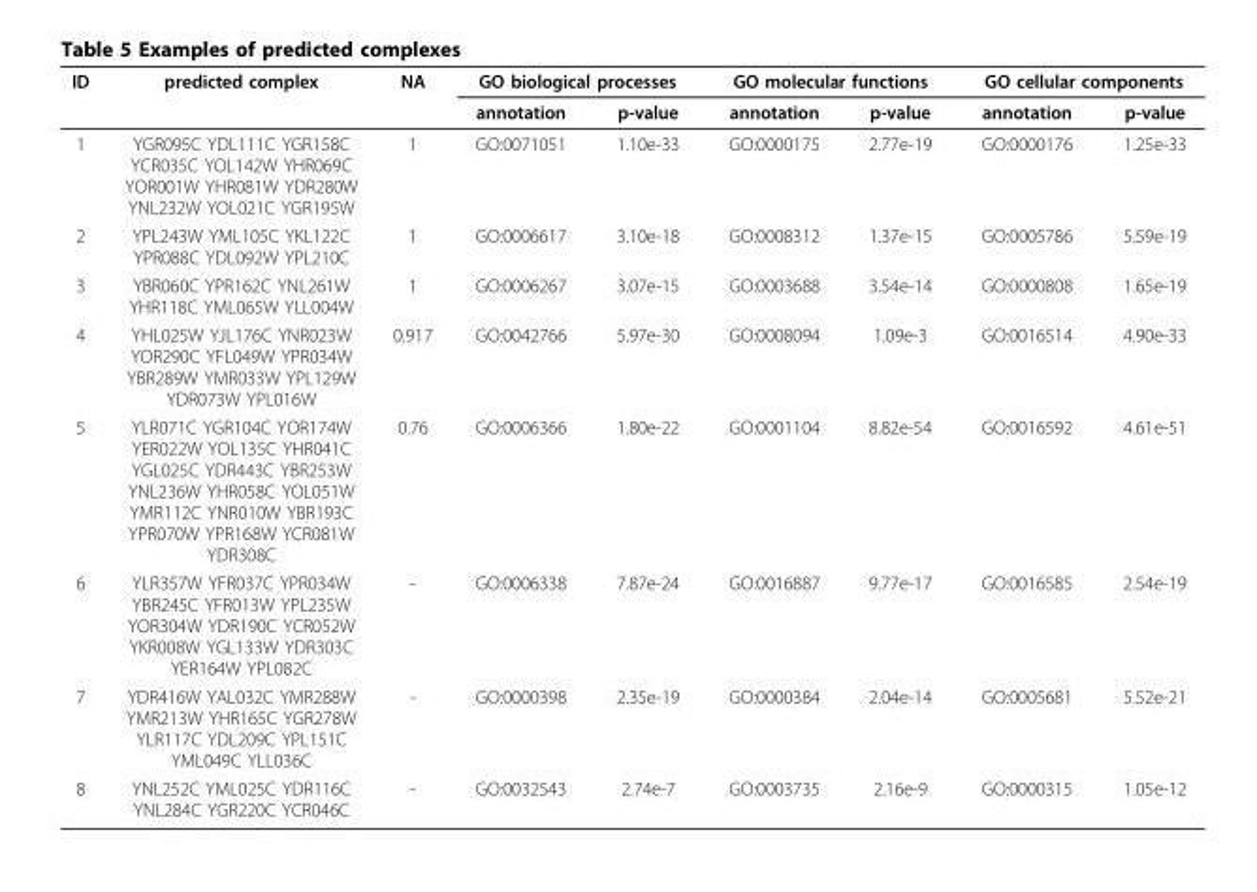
<table><thead><tr><td rowspan="2">ID</td><td rowspan="2">predicted complex</td><td rowspan="2">NA</td><td colspan="2">GO biological processes</td><td colspan="2">GO molecular functions</td><td colspan="2">GO cellular components</td></tr><tr><td>annotation</td><td>p-value</td><td>annotation</td><td>p-value</td><td>annotation</td><td>p-value</td></tr></thead><tbody><tr><td>1</td><td>YGR095C YDL111C YGR158C YCR035C YOL142W YHR069C YOR001W YHR081W YDR280W YNL232W YOL021C YGR195W</td><td>1</td><td>GO:0071051</td><td>1.10e-33</td><td>GO:0000175</td><td>2.77e-19</td><td>GO:0000176</td><td>1.25e-33</td></tr><tr><td>2</td><td>YPL243W YML105C YKL122C YPR088C YDL092W YPL210C</td><td>1</td><td>GO:0006617</td><td>3.10e-18</td><td>GO:0008312</td><td>1.37e-15</td><td>GO:0005786</td><td>5.59e-19</td></tr><tr><td>3</td><td>YBR060C YPR162C YNL261W YHR118C YML065W YLL004W</td><td>1</td><td>GO:0006267</td><td>3.07e-15</td><td>GO:0003688</td><td>3.54e-14</td><td>GO:0000808</td><td>1.65e-19</td></tr><tr><td>4</td><td>YHL025W YJL176C YNR023W YOR290C YFL049W YPR034W YBR289W YMR033W YPL129W YDR073W YPL016W</td><td>0.917</td><td>GO:0042766</td><td>5.97e-30</td><td>GO:0008094</td><td>1.09e-3</td><td>GO:0016514</td><td>4.90e-33</td></tr><tr><td>5</td><td>YLR071C YGR104C YOR174W YER022W YOL135C YHR041C YGL025C YDR443C YBR253W YNL236W YHR058C YOL051W YMR112C YNR010W YBR193C YPR070W YPR168W YCR081W YDR308C</td><td>0.76</td><td>GO:0006366</td><td>1.80e-22</td><td>GO:0001104</td><td>8.82e-54</td><td>GO:0016592</td><td>4.61e-51</td></tr><tr><td>6</td><td>YLR357W YFR037C YPR034W YBR245C YFR013W YPL235W YOR304W YDR190C YCR052W YKR008W YGL133W YDR303C YER164W YPL082C</td><td>-</td><td>GO:0006338</td><td>7.87e-24</td><td>GO:0016887</td><td>9.77e-17</td><td>GO:0016585</td><td>2.54e-19</td></tr><tr><td>7</td><td>YDR416W YAL032C YMR288W YMR213W YHR165C YGR278W YLR117C YDL209C YPL151C YML049C YLL036C</td><td>-</td><td>GO:0000398</td><td>2.35e-19</td><td>GO:0000384</td><td>2.04e-14</td><td>GO:0005681</td><td>5.52e-21</td></tr><tr><td>8</td><td>YNL252C YML025C YDR116C YNL284C YGR220C YCR046C</td><td>-</td><td>GO:0032543</td><td>2.74e-7</td><td>GO:0003735</td><td>2.16e-9</td><td>GO:0000315</td><td>1.05e-12</td></tr></tbody></table>